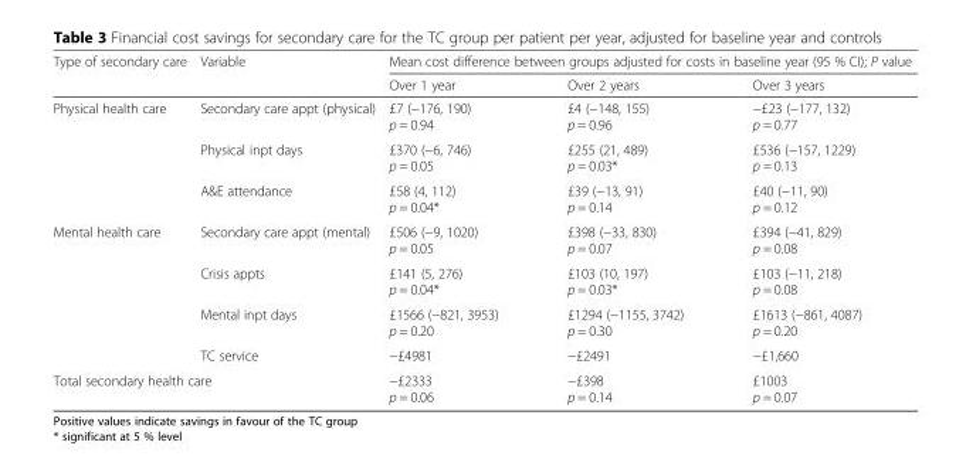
<table><thead><tr><td rowspan="2">Type of secondary care</td><td rowspan="2">Variable</td><td colspan="3">Mean cost difference between groups adjusted for costs in baseline year (95 % CI); P value</td></tr><tr><td>Over 1 year</td><td>Over 2 years</td><td>Over 3 years</td></tr></thead><tbody><tr><td rowspan="3">Physical health care</td><td>Secondary care appt (physical)</td><td>£7 (−176, 190) p = 0.94</td><td>£4 (−148, 155) p = 0.96</td><td>−£23 (−177, 132) p = 0.77</td></tr><tr><td>Physical inpt days</td><td>£370 (−6, 746) p = 0.05</td><td>£255 (21, 489) p = 0.03*</td><td>£536 (−157, 1229) p = 0.13</td></tr><tr><td>A&amp;E attendance</td><td>£58 (4, 112) p = 0.04*</td><td>£39 (−13, 91) p = 0.14</td><td>£40 (−11, 90) p = 0.12</td></tr><tr><td rowspan="4">Mental health care</td><td>Secondary care appt (mental)</td><td>£506 (−9, 1020) p = 0.05</td><td>£398 (−33, 830) p = 0.07</td><td>£394 (−41, 829) p = 0.08</td></tr><tr><td>Crisis appts</td><td>£141 (5, 276) p = 0.04*</td><td>£103 (10, 197) p = 0.03*</td><td>£103 (−11, 218) p = 0.08</td></tr><tr><td>Mental inpt days</td><td>£1566 (−821, 3953) p = 0.20</td><td>£1294 (−1155, 3742) p = 0.30</td><td>£1613 (−861, 4087) p = 0.20</td></tr><tr><td>TC service</td><td>−£4981</td><td>−£2491</td><td>−£1,660</td></tr><tr><td colspan="2">Total secondary health care</td><td>−£2333 p = 0.06</td><td>−£398 p = 0.14</td><td>£1003 p = 0.07</td></tr></tbody></table>